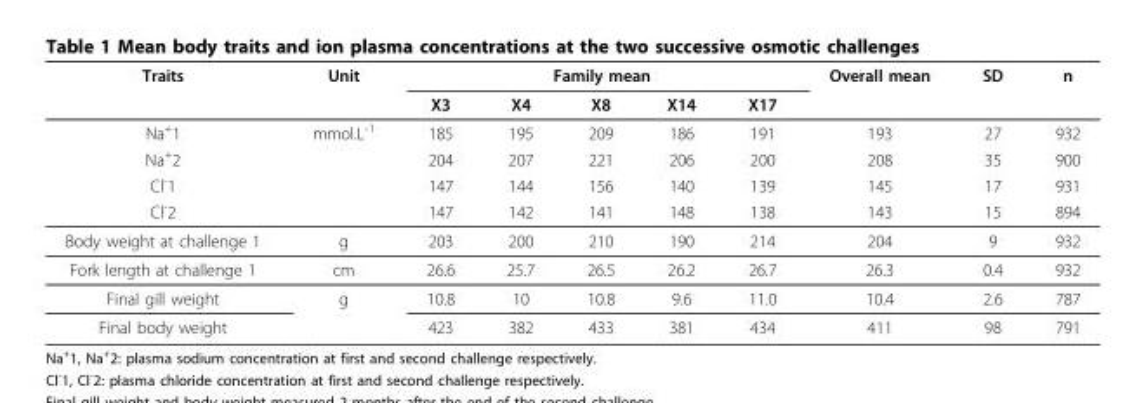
<table><thead><tr><td rowspan="2">Traits</td><td rowspan="2">Unit</td><td colspan="5">Family mean</td><td rowspan="2">Overall mean</td><td rowspan="2">SD</td><td rowspan="2">n</td></tr><tr><td>X3</td><td>X4</td><td>X8</td><td>X14</td><td>X17</td></tr></thead><tbody><tr><td>Na<sup>+</sup>1</td><td>mmol.L<sup>-1</sup></td><td>185</td><td>195</td><td>209</td><td>186</td><td>191</td><td>193</td><td>27</td><td>932</td></tr><tr><td>Na<sup>+</sup>2</td><td></td><td>204</td><td>207</td><td>221</td><td>206</td><td>200</td><td>208</td><td>35</td><td>900</td></tr><tr><td>Cl<sup>-</sup>1</td><td></td><td>147</td><td>144</td><td>156</td><td>140</td><td>139</td><td>145</td><td>17</td><td>931</td></tr><tr><td>Cl<sup>-</sup>2</td><td></td><td>147</td><td>142</td><td>141</td><td>148</td><td>138</td><td>143</td><td>15</td><td>894</td></tr><tr><td>Body weight at challenge 1</td><td>g</td><td>203</td><td>200</td><td>210</td><td>190</td><td>214</td><td>204</td><td>9</td><td>932</td></tr><tr><td>Fork length at challenge 1</td><td>cm</td><td>26.6</td><td>25.7</td><td>26.5</td><td>26.2</td><td>26.7</td><td>26.3</td><td>0.4</td><td>932</td></tr><tr><td>Final gill weight</td><td>g</td><td>10.8</td><td>10</td><td>10.8</td><td>9.6</td><td>11.0</td><td>10.4</td><td>2.6</td><td>787</td></tr><tr><td>Final body weight</td><td></td><td>423</td><td>382</td><td>433</td><td>381</td><td>434</td><td>411</td><td>98</td><td>791</td></tr></tbody></table>